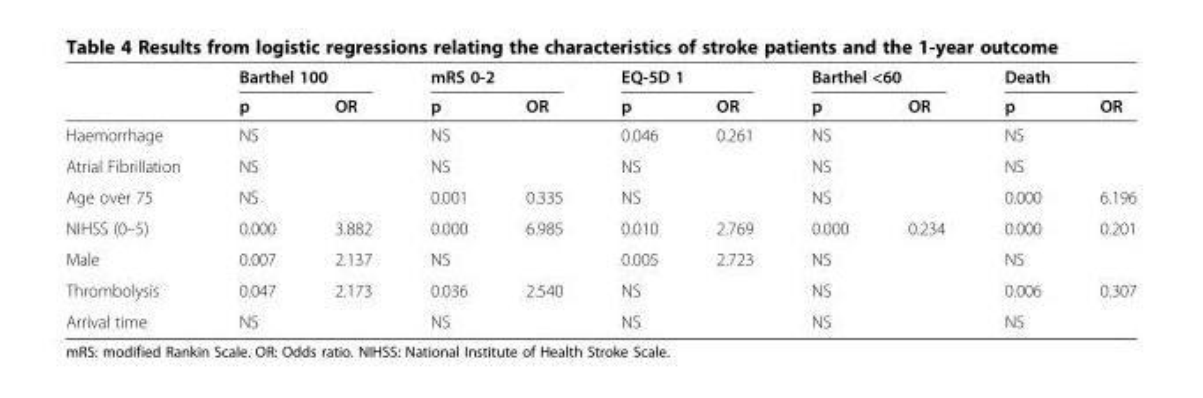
<table><thead><tr><td rowspan="2"></td><td colspan="2">Barthel 100</td><td colspan="2">mRS 0-2</td><td colspan="2">EQ-5D 1</td><td colspan="2">Barthel &lt;60</td><td colspan="2">Death</td></tr><tr><td>p</td><td>OR</td><td>p</td><td>OR</td><td>p</td><td>OR</td><td>p</td><td>OR</td><td>p</td><td>OR</td></tr></thead><tbody><tr><td>Haemorrhage</td><td>NS</td><td></td><td>NS</td><td></td><td>0.046</td><td>0.261</td><td>NS</td><td></td><td>NS</td><td></td></tr><tr><td>Atrial Fibrillation</td><td>NS</td><td></td><td>NS</td><td></td><td>NS</td><td></td><td>NS</td><td></td><td>NS</td><td></td></tr><tr><td>Age over 75</td><td>NS</td><td></td><td>0.001</td><td>0.335</td><td>NS</td><td></td><td>NS</td><td></td><td>0.000</td><td>6.196</td></tr><tr><td>NIHSS (0–5)</td><td>0.000</td><td>3.882</td><td>0.000</td><td>6.985</td><td>0.010</td><td>2.769</td><td>0.000</td><td>0.234</td><td>0.000</td><td>0.201</td></tr><tr><td>Male</td><td>0.007</td><td>2.137</td><td>NS</td><td></td><td>0.005</td><td>2.723</td><td>NS</td><td></td><td>NS</td><td></td></tr><tr><td>Thrombolysis</td><td>0.047</td><td>2.173</td><td>0.036</td><td>2.540</td><td>NS</td><td></td><td>NS</td><td></td><td>0.006</td><td>0.307</td></tr><tr><td>Arrival time</td><td>NS</td><td></td><td>NS</td><td></td><td>NS</td><td></td><td>NS</td><td></td><td>NS</td><td></td></tr></tbody></table>